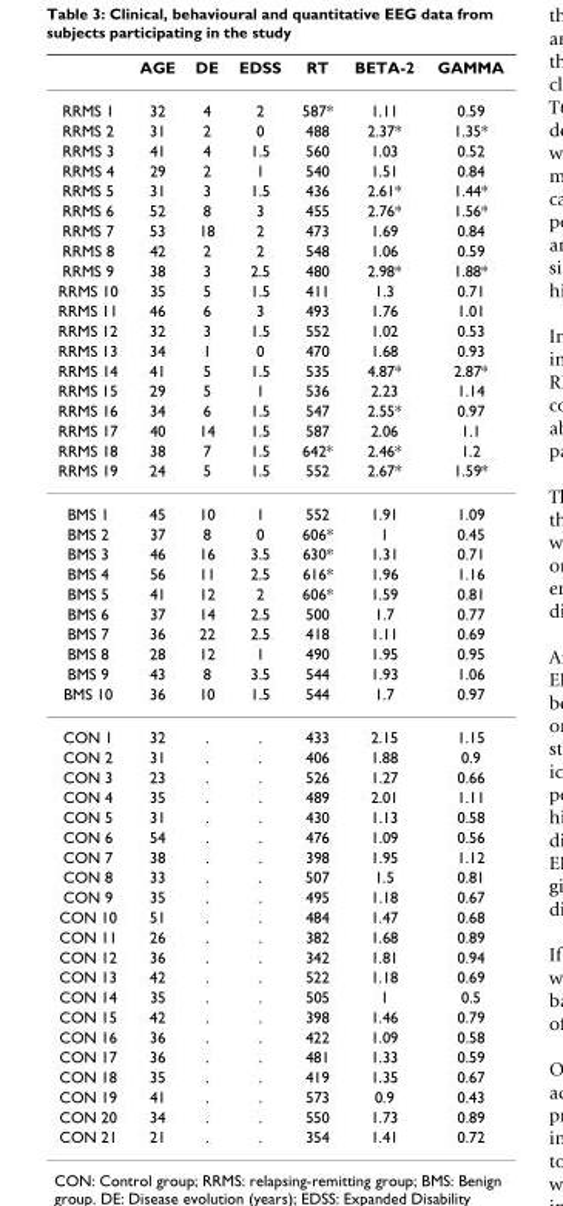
<table><thead><tr><td></td><td>AGE</td><td>DE</td><td>EDSS</td><td>RT</td><td>BETA-2</td><td>GAMMA</td></tr></thead><tbody><tr><td>RRMS 1</td><td>32</td><td>4</td><td>2</td><td>587*</td><td>1.11</td><td>0.59</td></tr><tr><td>RRMS 2</td><td>31</td><td>2</td><td>0</td><td>488</td><td>2.37*</td><td>1.35*</td></tr><tr><td>RRMS 3</td><td>41</td><td>4</td><td>1.5</td><td>560</td><td>1.03</td><td>0.52</td></tr><tr><td>RRMS 4</td><td>29</td><td>2</td><td>1</td><td>540</td><td>1.51</td><td>0.84</td></tr><tr><td>RRMS 5</td><td>31</td><td>3</td><td>1.5</td><td>436</td><td>2.61*</td><td>1.44*</td></tr><tr><td>RRMS 6</td><td>52</td><td>8</td><td>3</td><td>455</td><td>2.76*</td><td>1.56*</td></tr><tr><td>RRMS 7</td><td>53</td><td>18</td><td>2</td><td>473</td><td>1.69</td><td>0.84</td></tr><tr><td>RRMS 8</td><td>42</td><td>2</td><td>2</td><td>548</td><td>1.06</td><td>0.59</td></tr><tr><td>RRMS 9</td><td>38</td><td>3</td><td>2.5</td><td>480</td><td>2.98*</td><td>1.88*</td></tr><tr><td>RRMS 10</td><td>35</td><td>5</td><td>1.5</td><td>411</td><td>1.3</td><td>0.71</td></tr><tr><td>RRMS 11</td><td>46</td><td>6</td><td>3</td><td>493</td><td>1.76</td><td>1.01</td></tr><tr><td>RRMS 12</td><td>32</td><td>3</td><td>1.5</td><td>552</td><td>1.02</td><td>0.53</td></tr><tr><td>RRMS 13</td><td>34</td><td>1</td><td>0</td><td>470</td><td>1.68</td><td>0.93</td></tr><tr><td>RRMS 14</td><td>41</td><td>5</td><td>1.5</td><td>535</td><td>4.87*</td><td>2.87*</td></tr><tr><td>RRMS 15</td><td>29</td><td>5</td><td>1</td><td>536</td><td>2.23</td><td>1.14</td></tr><tr><td>RRMS 16</td><td>34</td><td>6</td><td>1.5</td><td>547</td><td>2.55*</td><td>0.97</td></tr><tr><td>RRMS 17</td><td>40</td><td>14</td><td>1.5</td><td>587</td><td>2.06</td><td>1.1</td></tr><tr><td>RRMS 18</td><td>38</td><td>7</td><td>1.5</td><td>642*</td><td>2.46*</td><td>1.2</td></tr><tr><td>RRMS 19</td><td>24</td><td>5</td><td>1.5</td><td>552</td><td>2.67*</td><td>1.59*</td></tr><tr><td>BMS 1</td><td>45</td><td>10</td><td>1</td><td>552</td><td>1.91</td><td>1.09</td></tr><tr><td>BMS 2</td><td>37</td><td>8</td><td>0</td><td>606*</td><td>1</td><td>0.45</td></tr><tr><td>BMS 3</td><td>46</td><td>16</td><td>3.5</td><td>630*</td><td>1.31</td><td>0.71</td></tr><tr><td>BMS 4</td><td>56</td><td>11</td><td>2.5</td><td>616*</td><td>1.96</td><td>1.16</td></tr><tr><td>BMS 5</td><td>41</td><td>12</td><td>2</td><td>606*</td><td>1.59</td><td>0.81</td></tr><tr><td>BMS 6</td><td>37</td><td>14</td><td>2.5</td><td>500</td><td>1.7</td><td>0.77</td></tr><tr><td>BMS 7</td><td>36</td><td>22</td><td>2.5</td><td>418</td><td>1.11</td><td>0.69</td></tr><tr><td>BMS 8</td><td>28</td><td>12</td><td>1</td><td>490</td><td>1.95</td><td>0.95</td></tr><tr><td>BMS 9</td><td>43</td><td>8</td><td>3.5</td><td>544</td><td>1.93</td><td>1.06</td></tr><tr><td>BMS 10</td><td>36</td><td>10</td><td>1.5</td><td>544</td><td>1.7</td><td>0.97</td></tr><tr><td>CON 1</td><td>32</td><td>.</td><td>.</td><td>433</td><td>2.15</td><td>1.15</td></tr><tr><td>CON 2</td><td>31</td><td>.</td><td>.</td><td>406</td><td>1.88</td><td>0.9</td></tr><tr><td>CON 3</td><td>23</td><td>.</td><td>.</td><td>526</td><td>1.27</td><td>0.66</td></tr><tr><td>CON 4</td><td>35</td><td>.</td><td>.</td><td>489</td><td>2.01</td><td>1.11</td></tr><tr><td>CON 5</td><td>31</td><td>.</td><td>.</td><td>430</td><td>1.13</td><td>0.58</td></tr><tr><td>CON 6</td><td>54</td><td>.</td><td>.</td><td>476</td><td>1.09</td><td>0.56</td></tr><tr><td>CON 7</td><td>38</td><td>.</td><td>.</td><td>398</td><td>1.95</td><td>1.12</td></tr><tr><td>CON 8</td><td>33</td><td>.</td><td>.</td><td>507</td><td>1.5</td><td>0.81</td></tr><tr><td>CON 9</td><td>35</td><td>.</td><td>.</td><td>495</td><td>1.18</td><td>0.67</td></tr><tr><td>CON 10</td><td>51</td><td>.</td><td>.</td><td>484</td><td>1.47</td><td>0.68</td></tr><tr><td>CON 11</td><td>26</td><td>.</td><td>.</td><td>382</td><td>1.68</td><td>0.89</td></tr><tr><td>CON 12</td><td>36</td><td>.</td><td>.</td><td>342</td><td>1.81</td><td>0.94</td></tr><tr><td>CON 13</td><td>42</td><td>.</td><td>.</td><td>522</td><td>1.18</td><td>0.69</td></tr><tr><td>CON 14</td><td>35</td><td>.</td><td>.</td><td>505</td><td>1</td><td>0.5</td></tr><tr><td>CON 15</td><td>42</td><td>.</td><td>.</td><td>398</td><td>1.46</td><td>0.79</td></tr><tr><td>CON 16</td><td>36</td><td>.</td><td>.</td><td>422</td><td>1.09</td><td>0.58</td></tr><tr><td>CON 17</td><td>36</td><td>.</td><td>.</td><td>481</td><td>1.33</td><td>0.59</td></tr><tr><td>CON 18</td><td>35</td><td>.</td><td>.</td><td>419</td><td>1.35</td><td>0.67</td></tr><tr><td>CON 19</td><td>41</td><td>.</td><td>.</td><td>573</td><td>0.9</td><td>0.43</td></tr><tr><td>CON 20</td><td>34</td><td>.</td><td>.</td><td>550</td><td>1.73</td><td>0.89</td></tr><tr><td>CON 21</td><td>21</td><td>.</td><td>.</td><td>354</td><td>1.41</td><td>0.72</td></tr></tbody></table>